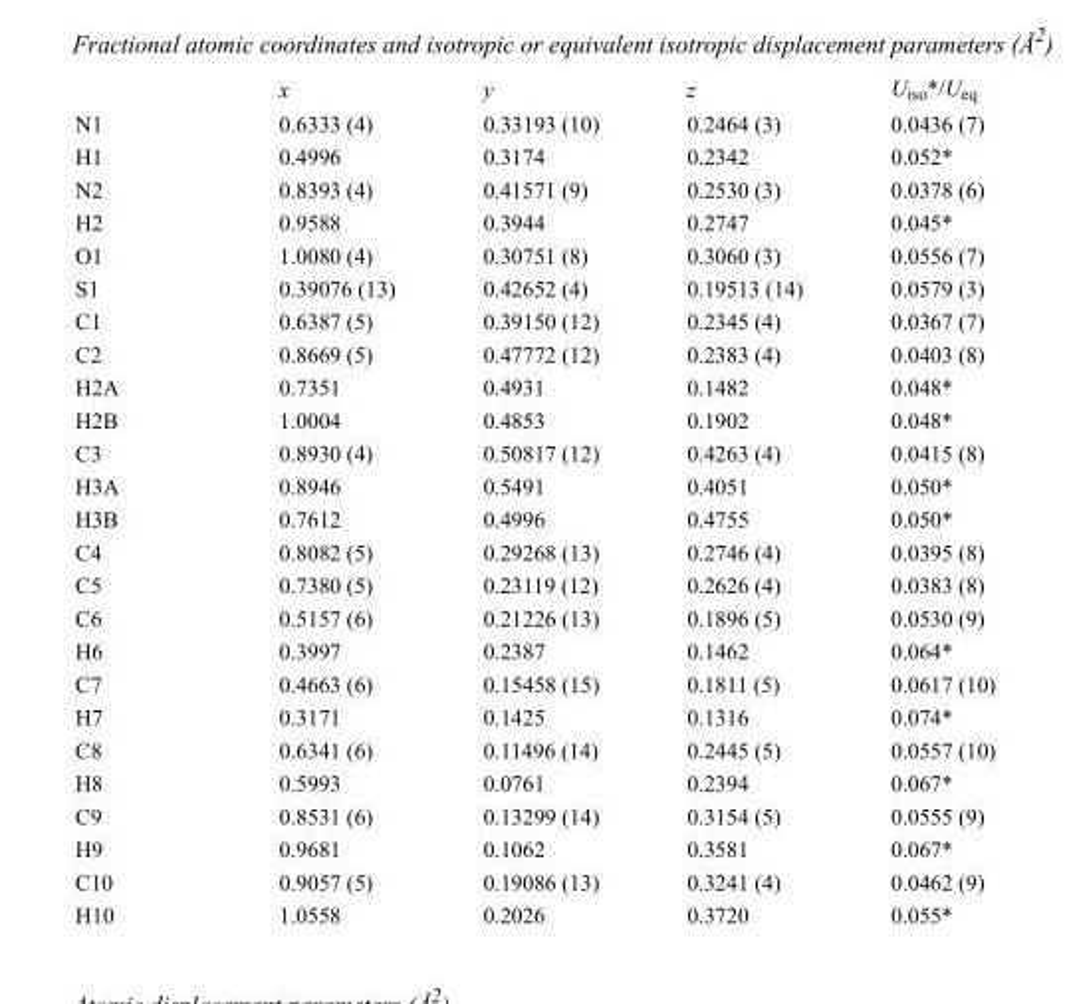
<table><thead><tr><td></td><td>x</td><td>y</td><td>z</td><td>U<sub>iso</sub>*/U<sub>eq</sub></td></tr></thead><tbody><tr><td>N1</td><td>0.6333 (4)</td><td>0.33193 (10)</td><td>0.2464 (3)</td><td>0.0436 (7)</td></tr><tr><td>H1</td><td>0.4996</td><td>0.3174</td><td>0.2342</td><td>0.052*</td></tr><tr><td>N2</td><td>0.8393 (4)</td><td>0.41571 (9)</td><td>0.2530 (3)</td><td>0.0378 (6)</td></tr><tr><td>H2</td><td>0.9588</td><td>0.3944</td><td>0.2747</td><td>0.045*</td></tr><tr><td>O1</td><td>1.0080 (4)</td><td>0.30751 (8)</td><td>0.3060 (3)</td><td>0.0556 (7)</td></tr><tr><td>S1</td><td>0.39076 (13)</td><td>0.42652 (4)</td><td>0.19513 (14)</td><td>0.0579 (3)</td></tr><tr><td>C1</td><td>0.6387 (5)</td><td>0.39150 (12)</td><td>0.2345 (4)</td><td>0.0367 (7)</td></tr><tr><td>C2</td><td>0.8669 (5)</td><td>0.47772 (12)</td><td>0.2383 (4)</td><td>0.0403 (8)</td></tr><tr><td>H2A</td><td>0.7351</td><td>0.4931</td><td>0.1482</td><td>0.048*</td></tr><tr><td>H2B</td><td>1.0004</td><td>0.4853</td><td>0.1902</td><td>0.048*</td></tr><tr><td>C3</td><td>0.8930 (4)</td><td>0.50817 (12)</td><td>0.4263 (4)</td><td>0.0415 (8)</td></tr><tr><td>H3A</td><td>0.8946</td><td>0.5491</td><td>0.4051</td><td>0.050*</td></tr><tr><td>H3B</td><td>0.7612</td><td>0.4996</td><td>0.4755</td><td>0.050*</td></tr><tr><td>C4</td><td>0.8082 (5)</td><td>0.29268 (13)</td><td>0.2746 (4)</td><td>0.0395 (8)</td></tr><tr><td>C5</td><td>0.7380 (5)</td><td>0.23119 (12)</td><td>0.2626 (4)</td><td>0.0383 (8)</td></tr><tr><td>C6</td><td>0.5157 (6)</td><td>0.21226 (13)</td><td>0.1896 (5)</td><td>0.0530 (9)</td></tr><tr><td>H6</td><td>0.3997</td><td>0.2387</td><td>0.1462</td><td>0.064*</td></tr><tr><td>C7</td><td>0.4663 (6)</td><td>0.15458 (15)</td><td>0.1811 (5)</td><td>0.0617 (10)</td></tr><tr><td>H7</td><td>0.3171</td><td>0.1425</td><td>0.1316</td><td>0.074*</td></tr><tr><td>C8</td><td>0.6341 (6)</td><td>0.11496 (14)</td><td>0.2445 (5)</td><td>0.0557 (10)</td></tr><tr><td>H8</td><td>0.5993</td><td>0.0761</td><td>0.2394</td><td>0.067*</td></tr><tr><td>C9</td><td>0.8531 (6)</td><td>0.13299 (14)</td><td>0.3154 (5)</td><td>0.0555 (9)</td></tr><tr><td>H9</td><td>0.9681</td><td>0.1062</td><td>0.3581</td><td>0.067*</td></tr><tr><td>C10</td><td>0.9057 (5)</td><td>0.19086 (13)</td><td>0.3241 (4)</td><td>0.0462 (9)</td></tr><tr><td>H10</td><td>1.0558</td><td>0.2026</td><td>0.3720</td><td>0.055*</td></tr></tbody></table>